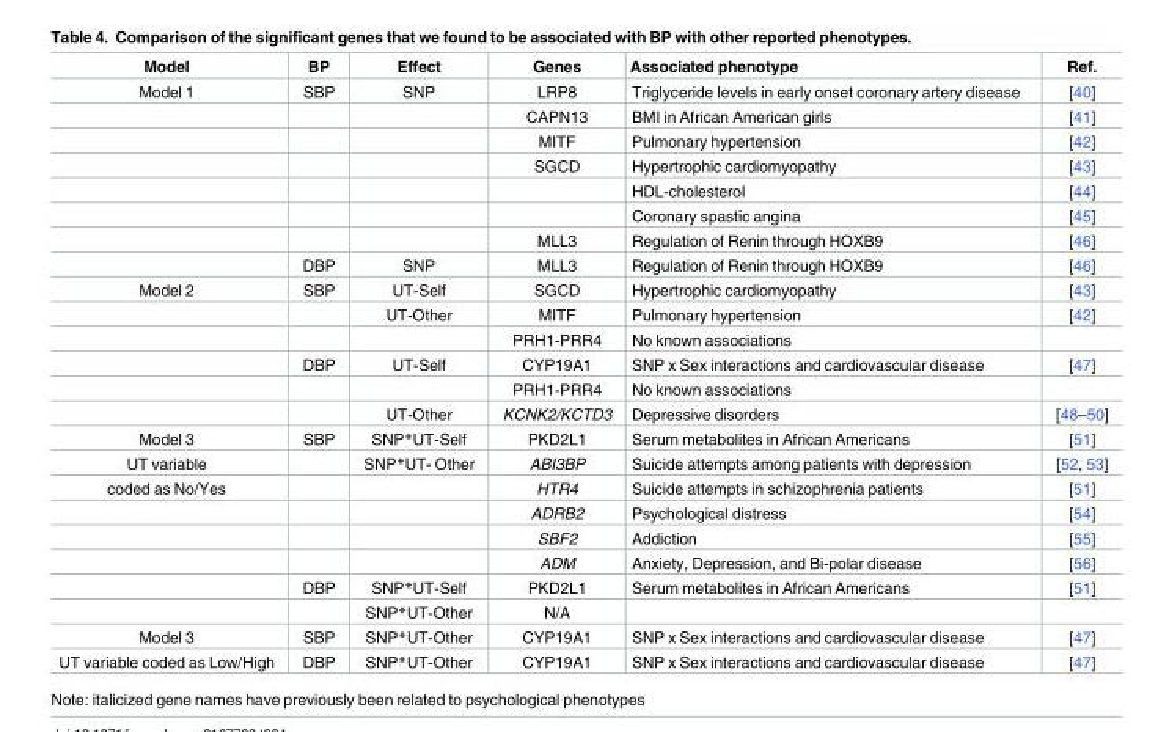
<table><thead><tr><td>Model</td><td>BP</td><td>Effect</td><td>Genes</td><td>Associated phenotype</td><td>Ref.</td></tr></thead><tbody><tr><td rowspan="8">Model 1</td><td>SBP</td><td>SNP</td><td>LRP8</td><td>Triglyceride levels in early onset coronary artery disease</td><td>[40]</td></tr><tr><td></td><td></td><td>CAPN13</td><td>BMI in African American girls</td><td>[41]</td></tr><tr><td></td><td></td><td>MITF</td><td>Pulmonary hypertension</td><td>[42]</td></tr><tr><td></td><td></td><td>SGCD</td><td>Hypertrophic cardiomyopathy</td><td>[43]</td></tr><tr><td></td><td></td><td></td><td>HDL-cholesterol</td><td>[44]</td></tr><tr><td></td><td></td><td></td><td>Coronary spastic angina</td><td>[45]</td></tr><tr><td></td><td></td><td>MLL3</td><td>Regulation of Renin through HOXB9</td><td>[46]</td></tr><tr><td>DBP</td><td>SNP</td><td>MLL3</td><td>Regulation of Renin through HOXB9</td><td>[46]</td></tr><tr><td rowspan="6">Model 2</td><td>SBP</td><td>UT-Self</td><td>SGCD</td><td>Hypertrophic cardiomyopathy</td><td>[43]</td></tr><tr><td></td><td>UT-Other</td><td>MITF</td><td>Pulmonary hypertension</td><td>[42]</td></tr><tr><td></td><td></td><td>PRH1-PRR4</td><td>No known associations</td><td></td></tr><tr><td>DBP</td><td>UT-Self</td><td>CYP19A1</td><td>SNP x Sex interactions and cardiovascular disease</td><td>[47]</td></tr><tr><td></td><td></td><td>PRH1-PRR4</td><td>No known associations</td><td></td></tr><tr><td></td><td>UT-Other</td><td>KCNK2/KCTD3</td><td>Depressive disorders</td><td>[48–50]</td></tr><tr><td>Model 3</td><td>SBP</td><td>SNP*UT-Self</td><td>PKD2L1</td><td>Serum metabolites in African Americans</td><td>[51]</td></tr><tr><td>UT variable</td><td></td><td>SNP*UT- Other</td><td>ABI3BP</td><td>Suicide attempts among patients with depression</td><td>[52, 53]</td></tr><tr><td rowspan="6">coded as No/Yes</td><td></td><td></td><td>HTR4</td><td>Suicide attempts in schizophrenia patients</td><td>[51]</td></tr><tr><td></td><td></td><td>ADRB2</td><td>Psychological distress</td><td>[54]</td></tr><tr><td></td><td></td><td>SBF2</td><td>Addiction</td><td>[55]</td></tr><tr><td></td><td></td><td>ADM</td><td>Anxiety, Depression, and Bi-polar disease</td><td>[56]</td></tr><tr><td>DBP</td><td>SNP*UT-Self</td><td>PKD2L1</td><td>Serum metabolites in African Americans</td><td>[51]</td></tr><tr><td></td><td>SNP*UT-Other</td><td>N/A</td><td></td><td></td></tr><tr><td>Model 3</td><td>SBP</td><td>SNP*UT-Other</td><td>CYP19A1</td><td>SNP x Sex interactions and cardiovascular disease</td><td>[47]</td></tr><tr><td>UT variable coded as Low/High</td><td>DBP</td><td>SNP*UT-Other</td><td>CYP19A1</td><td>SNP x Sex interactions and cardiovascular disease</td><td>[47]</td></tr></tbody></table>